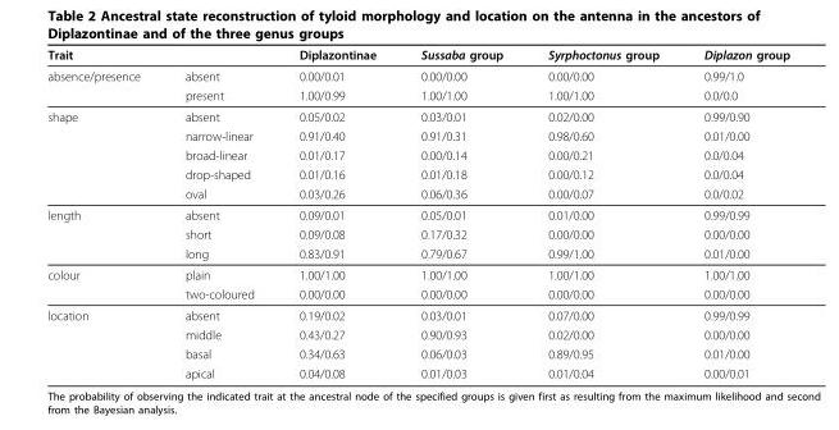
<table><thead><tr><td>Trait</td><td></td><td>Diplazontinae</td><td>Sussaba group</td><td>Syrphoctonus group</td><td>Diplazon group</td></tr></thead><tbody><tr><td rowspan="2">absence/presence</td><td>absent</td><td>0.00/0.01</td><td>0.00/0.00</td><td>0.00/0.00</td><td>0.99/1.0</td></tr><tr><td>present</td><td>1.00/0.99</td><td>1.00/1.00</td><td>1.00/1.00</td><td>0.0/0.0</td></tr><tr><td rowspan="5">shape</td><td>absent</td><td>0.05/0.02</td><td>0.03/0.01</td><td>0.02/0.00</td><td>0.99/0.90</td></tr><tr><td>narrow-linear</td><td>0.91/0.40</td><td>0.91/0.31</td><td>0.98/0.60</td><td>0.01/0.00</td></tr><tr><td>broad-linear</td><td>0.01/0.17</td><td>0.00/0.14</td><td>0.00/0.21</td><td>0.0/0.04</td></tr><tr><td>drop-shaped</td><td>0.01/0.16</td><td>0.01/0.18</td><td>0.00/0.12</td><td>0.0/0.04</td></tr><tr><td>oval</td><td>0.03/0.26</td><td>0.06/0.36</td><td>0.00/0.07</td><td>0.0/0.02</td></tr><tr><td rowspan="3">length</td><td>absent</td><td>0.09/0.01</td><td>0.05/0.01</td><td>0.01/0.00</td><td>0.99/0.99</td></tr><tr><td>short</td><td>0.09/0.08</td><td>0.17/0.32</td><td>0.00/0.00</td><td>0.00/0.00</td></tr><tr><td>long</td><td>0.83/0.91</td><td>0.79/0.67</td><td>0.99/1.00</td><td>0.01/0.00</td></tr><tr><td rowspan="2">colour</td><td>plain</td><td>1.00/1.00</td><td>1.00/1.00</td><td>1.00/1.00</td><td>1.00/1.00</td></tr><tr><td>two-coloured</td><td>0.00/0.00</td><td>0.00/0.00</td><td>0.00/0.00</td><td>0.00/0.00</td></tr><tr><td rowspan="4">location</td><td>absent</td><td>0.19/0.02</td><td>0.03/0.01</td><td>0.07/0.00</td><td>0.99/0.99</td></tr><tr><td>middle</td><td>0.43/0.27</td><td>0.90/0.93</td><td>0.02/0.00</td><td>0.00/0.00</td></tr><tr><td>basal</td><td>0.34/0.63</td><td>0.06/0.03</td><td>0.89/0.95</td><td>0.01/0.00</td></tr><tr><td>apical</td><td>0.04/0.08</td><td>0.01/0.03</td><td>0.01/0.04</td><td>0.00/0.01</td></tr></tbody></table>